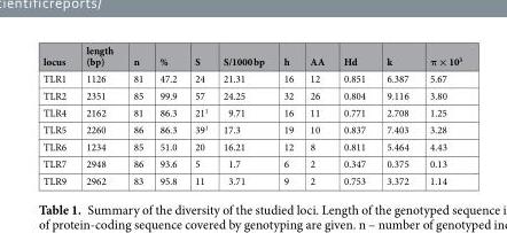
<table><thead><tr><td>locus</td><td>length (bp)</td><td>n</td><td>%</td><td>S</td><td>S/1000 bp</td><td>h</td><td>AA</td><td>Hd</td><td>k</td><td>π × 10<sup>3</sup></td></tr></thead><tbody><tr><td>TLR1</td><td>1126</td><td>81</td><td>47.2</td><td>24</td><td>21.31</td><td>16</td><td>12</td><td>0.851</td><td>6.387</td><td>5.67</td></tr><tr><td>TLR2</td><td>2351</td><td>85</td><td>99.9</td><td>57</td><td>24.25</td><td>32</td><td>26</td><td>0.804</td><td>9.116</td><td>3.80</td></tr><tr><td>TLR4</td><td>2162</td><td>81</td><td>86.3</td><td>21<sup>1</sup></td><td>9.71</td><td>16</td><td>11</td><td>0.771</td><td>2.708</td><td>1.25</td></tr><tr><td>TLR5</td><td>2260</td><td>86</td><td>86.3</td><td>39<sup>1</sup></td><td>17.3</td><td>19</td><td>10</td><td>0.837</td><td>7.403</td><td>3.28</td></tr><tr><td>TLR6</td><td>1234</td><td>85</td><td>51.0</td><td>20</td><td>16.21</td><td>12</td><td>8</td><td>0.811</td><td>5.464</td><td>4.43</td></tr><tr><td>TLR7</td><td>2948</td><td>86</td><td>93.6</td><td>5</td><td>1.7</td><td>6</td><td>2</td><td>0.347</td><td>0.375</td><td>0.13</td></tr><tr><td>TLR9</td><td>2962</td><td>83</td><td>95.8</td><td>11</td><td>3.71</td><td>9</td><td>2</td><td>0.753</td><td>3.372</td><td>1.14</td></tr></tbody></table>